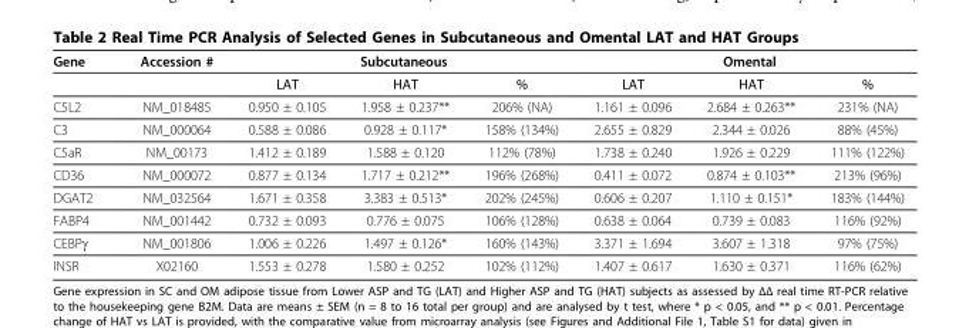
<table><thead><tr><td rowspan="2">Gene</td><td rowspan="2">Accession #</td><td colspan="3">Subcutaneous</td><td colspan="3">Omental</td></tr><tr><td>LAT</td><td>HAT</td><td>%</td><td>LAT</td><td>HAT</td><td>%</td></tr></thead><tbody><tr><td>C5L2</td><td>NM_018485</td><td>0.950 ± 0.105</td><td>1.958 ± 0.237**</td><td>206% (NA)</td><td>1.161 ± 0.096</td><td>2.684 ± 0.263**</td><td>231% (NA)</td></tr><tr><td>C3</td><td>NM_000064</td><td>0.588 ± 0.086</td><td>0.928 ± 0.117*</td><td>158% (134%)</td><td>2.655 ± 0.829</td><td>2.344 ± 0.026</td><td>88% (45%)</td></tr><tr><td>C5aR</td><td>NM_00173</td><td>1.412 ± 0.189</td><td>1.588 ± 0.120</td><td>112% (78%)</td><td>1.738 ± 0.240</td><td>1.926 ± 0.229</td><td>111% (122%)</td></tr><tr><td>CD36</td><td>NM_000072</td><td>0.877 ± 0.134</td><td>1.717 ± 0.212**</td><td>196% (268%)</td><td>0.411 ± 0.072</td><td>0.874 ± 0.103**</td><td>213% (96%)</td></tr><tr><td>DGAT2</td><td>NM_032564</td><td>1.671 ± 0.358</td><td>3.383 ± 0.513*</td><td>202% (245%)</td><td>0.606 ± 0.207</td><td>1.110 ± 0.151*</td><td>183% (144%)</td></tr><tr><td>FABP4</td><td>NM_001442</td><td>0.732 ± 0.093</td><td>0.776 ± 0.075</td><td>106% (128%)</td><td>0.638 ± 0.064</td><td>0.739 ± 0.083</td><td>116% (92%)</td></tr><tr><td>CEBPγ</td><td>NM_001806</td><td>1.006 ± 0.226</td><td>1.497 ± 0.126*</td><td>160% (143%)</td><td>3.371 ± 1.694</td><td>3.607 ± 1.318</td><td>97% (75%)</td></tr><tr><td>INSR</td><td>X02160</td><td>1.553 ± 0.278</td><td>1.580 ± 0.252</td><td>102% (112%)</td><td>1.407 ± 0.617</td><td>1.630 ± 0.371</td><td>116% (62%)</td></tr></tbody></table>